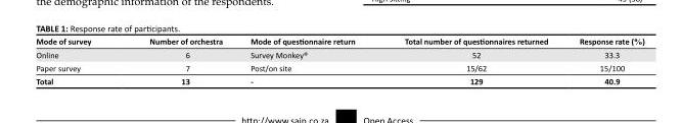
<table><thead><tr><td>Mode of survey</td><td>Number of orchestra</td><td>Mode of questionnaire return</td><td>Total number of questionnaires returned</td><td>Response rate (%)</td></tr></thead><tbody><tr><td>Online</td><td>6</td><td>Survey Monkey<sup>®</sup></td><td>52</td><td>33.3</td></tr><tr><td>Paper survey</td><td>7</td><td>Post/on site</td><td>15/62</td><td>15/100</td></tr><tr><td>Total</td><td>13</td><td>-</td><td>129</td><td>40.9</td></tr></tbody></table>